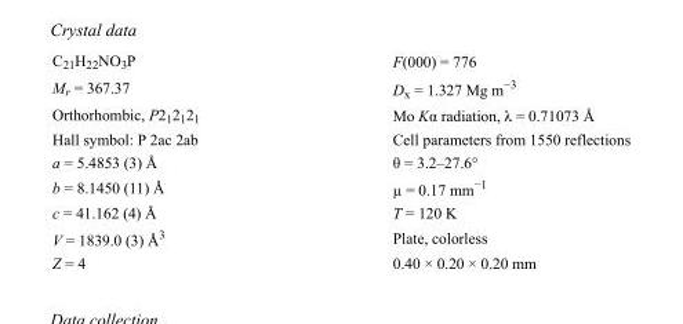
<table><tbody><tr><td>C<sub>21</sub>H<sub>22</sub>NO<sub>3</sub>P</td><td>F(000) = 776</td></tr><tr><td>M<sub>r</sub> = 367.37</td><td>D<sub>x</sub> = 1.327 Mg m<sup>−3</sup></td></tr><tr><td>Orthorhombic, P2<sub>1</sub>2<sub>1</sub>2<sub>1</sub></td><td>Mo Kα radiation, λ = 0.71073 Å</td></tr><tr><td>Hall symbol: P 2ac 2ab</td><td>Cell parameters from 1550 reflections</td></tr><tr><td>a = 5.4853 (3) Å</td><td>θ = 3.2–27.6°</td></tr><tr><td>b = 8.1450 (11) Å</td><td>µ = 0.17 mm<sup>−1</sup></td></tr><tr><td>c = 41.162 (4) Å</td><td>T = 120 K</td></tr><tr><td>V = 1839.0 (3) Å<sup>3</sup></td><td>Plate, colorless</td></tr><tr><td>Z = 4</td><td>0.40 × 0.20 × 0.20 mm</td></tr></tbody></table>